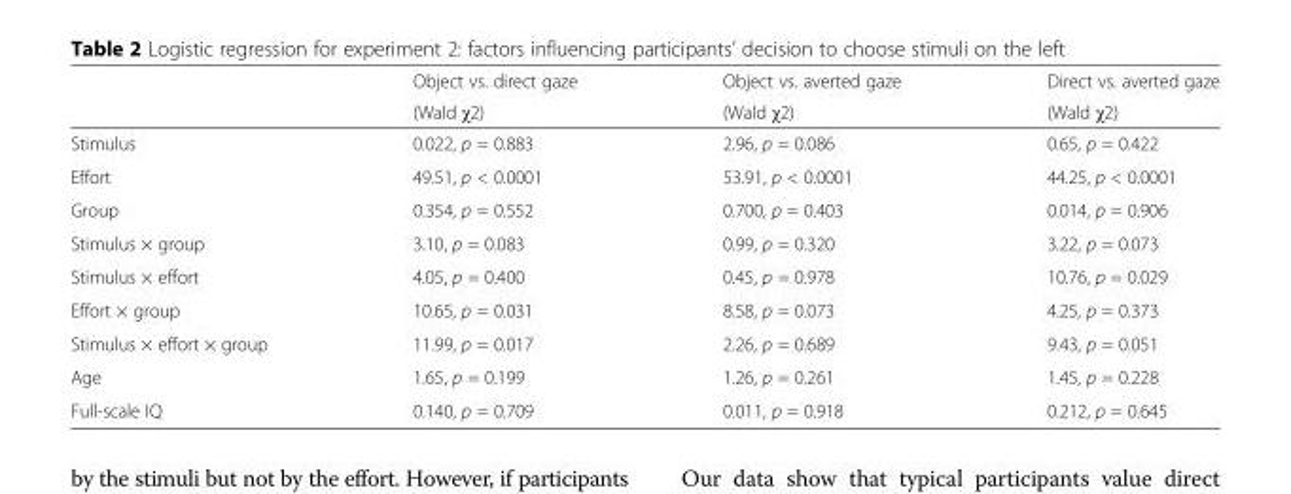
<table><thead><tr><td rowspan="2"></td><td rowspan="2">Object vs. direct gaze (Wald χ2)</td><td rowspan="2">Object vs. averted gaze (Wald χ2)</td><td rowspan="2">Direct vs. averted gaze (Wald χ2)</td></tr><tr></tr></thead><tbody><tr><td>Stimulus</td><td>0.022, p = 0.883</td><td>2.96, p = 0.086</td><td>0.65, p = 0.422</td></tr><tr><td>Effort</td><td>49.51, p &lt; 0.0001</td><td>53.91, p &lt; 0.0001</td><td>44.25, p &lt; 0.0001</td></tr><tr><td>Group</td><td>0.354, p = 0.552</td><td>0.700, p = 0.403</td><td>0.014, p = 0.906</td></tr><tr><td>Stimulus × group</td><td>3.10, p = 0.083</td><td>0.99, p = 0.320</td><td>3.22, p = 0.073</td></tr><tr><td>Stimulus × effort</td><td>4.05, p = 0.400</td><td>0.45, p = 0.978</td><td>10.76, p = 0.029</td></tr><tr><td>Effort × group</td><td>10.65, p = 0.031</td><td>8.58, p = 0.073</td><td>4.25, p = 0.373</td></tr><tr><td>Stimulus × effort × group</td><td>11.99, p = 0.017</td><td>2.26, p = 0.689</td><td>9.43, p = 0.051</td></tr><tr><td>Age</td><td>1.65, p = 0.199</td><td>1.26, p = 0.261</td><td>1.45, p = 0.228</td></tr><tr><td>Full-scale IQ</td><td>0.140, p = 0.709</td><td>0.011, p = 0.918</td><td>0.212, p = 0.645</td></tr></tbody></table>